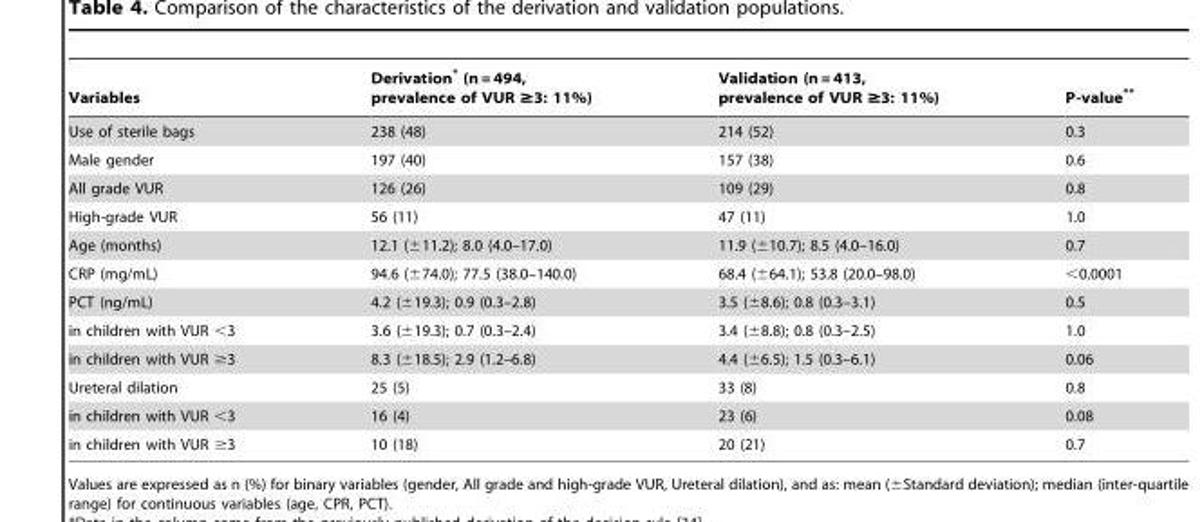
<table><thead><tr><td>Variables</td><td>Derivation* (n = 494, prevalence of VUR ≥3: 11%)</td><td>Validation (n = 413, prevalence of VUR ≥3: 11%)</td><td>P-value**</td></tr></thead><tbody><tr><td>Use of sterile bags</td><td>238 (48)</td><td>214 (52)</td><td>0.3</td></tr><tr><td>Male gender</td><td>197 (40)</td><td>157 (38)</td><td>0.6</td></tr><tr><td>All grade VUR</td><td>126 (26)</td><td>109 (29)</td><td>0.8</td></tr><tr><td>High-grade VUR</td><td>56 (11)</td><td>47 (11)</td><td>1.0</td></tr><tr><td>Age (months)</td><td>12.1 (±11.2); 8.0 (4.0–17.0)</td><td>11.9 (±10.7); 8.5 (4.0–16.0)</td><td>0.7</td></tr><tr><td>CRP (mg/mL)</td><td>94.6 (±74.0); 77.5 (38.0–140.0)</td><td>68.4 (±64.1); 53.8 (20.0–98.0)</td><td>&lt;0.0001</td></tr><tr><td>PCT (ng/mL)</td><td>4.2 (±19.3); 0.9 (0.3–2.8)</td><td>3.5 (±8.6); 0.8 (0.3–3.1)</td><td>0.5</td></tr><tr><td>in children with VUR &lt;3</td><td>3.6 (±19.3); 0.7 (0.3–2.4)</td><td>3.4 (±8.8); 0.8 (0.3–2.5)</td><td>1.0</td></tr><tr><td>in children with VUR ≥3</td><td>8.3 (±18.5); 2.9 (1.2–6.8)</td><td>4.4 (±6.5); 1.5 (0.3–6.1)</td><td>0.06</td></tr><tr><td>Ureteral dilation</td><td>25 (5)</td><td>33 (8)</td><td>0.8</td></tr><tr><td>in children with VUR &lt;3</td><td>16 (4)</td><td>23 (6)</td><td>0.08</td></tr><tr><td>in children with VUR ≥3</td><td>10 (18)</td><td>20 (21)</td><td>0.7</td></tr></tbody></table>